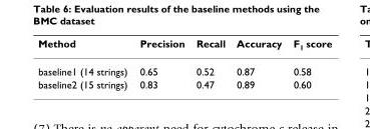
<table><thead><tr><td>Method</td><td>Precision</td><td>Recall</td><td>Accuracy</td><td>F<sub>1</sub> score</td></tr></thead><tbody><tr><td>baseline1 (14 strings)</td><td>0.65</td><td>0.52</td><td>0.87</td><td>0.58</td></tr><tr><td>baseline2 (15 strings)</td><td>0.83</td><td>0.47</td><td>0.89</td><td>0.60</td></tr></tbody></table>